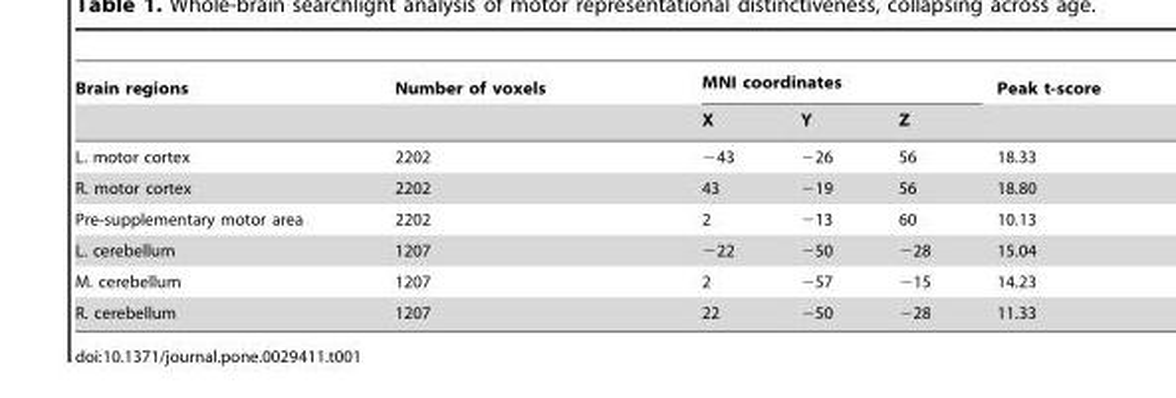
<table><thead><tr><td rowspan="2">Brain regions</td><td rowspan="2">Number of voxels</td><td colspan="3">MNI coordinates</td><td rowspan="2">Peak t-score</td></tr><tr><td>X</td><td>Y</td><td>Z</td></tr></thead><tbody><tr><td>L. motor cortex</td><td>2202</td><td>−43</td><td>−26</td><td>56</td><td>18.33</td></tr><tr><td>R. motor cortex</td><td>2202</td><td>43</td><td>−19</td><td>56</td><td>18.80</td></tr><tr><td>Pre-supplementary motor area</td><td>2202</td><td>2</td><td>−13</td><td>60</td><td>10.13</td></tr><tr><td>L. cerebellum</td><td>1207</td><td>−22</td><td>−50</td><td>−28</td><td>15.04</td></tr><tr><td>M. cerebellum</td><td>1207</td><td>2</td><td>−57</td><td>−15</td><td>14.23</td></tr><tr><td>R. cerebellum</td><td>1207</td><td>22</td><td>−50</td><td>−28</td><td>11.33</td></tr></tbody></table>